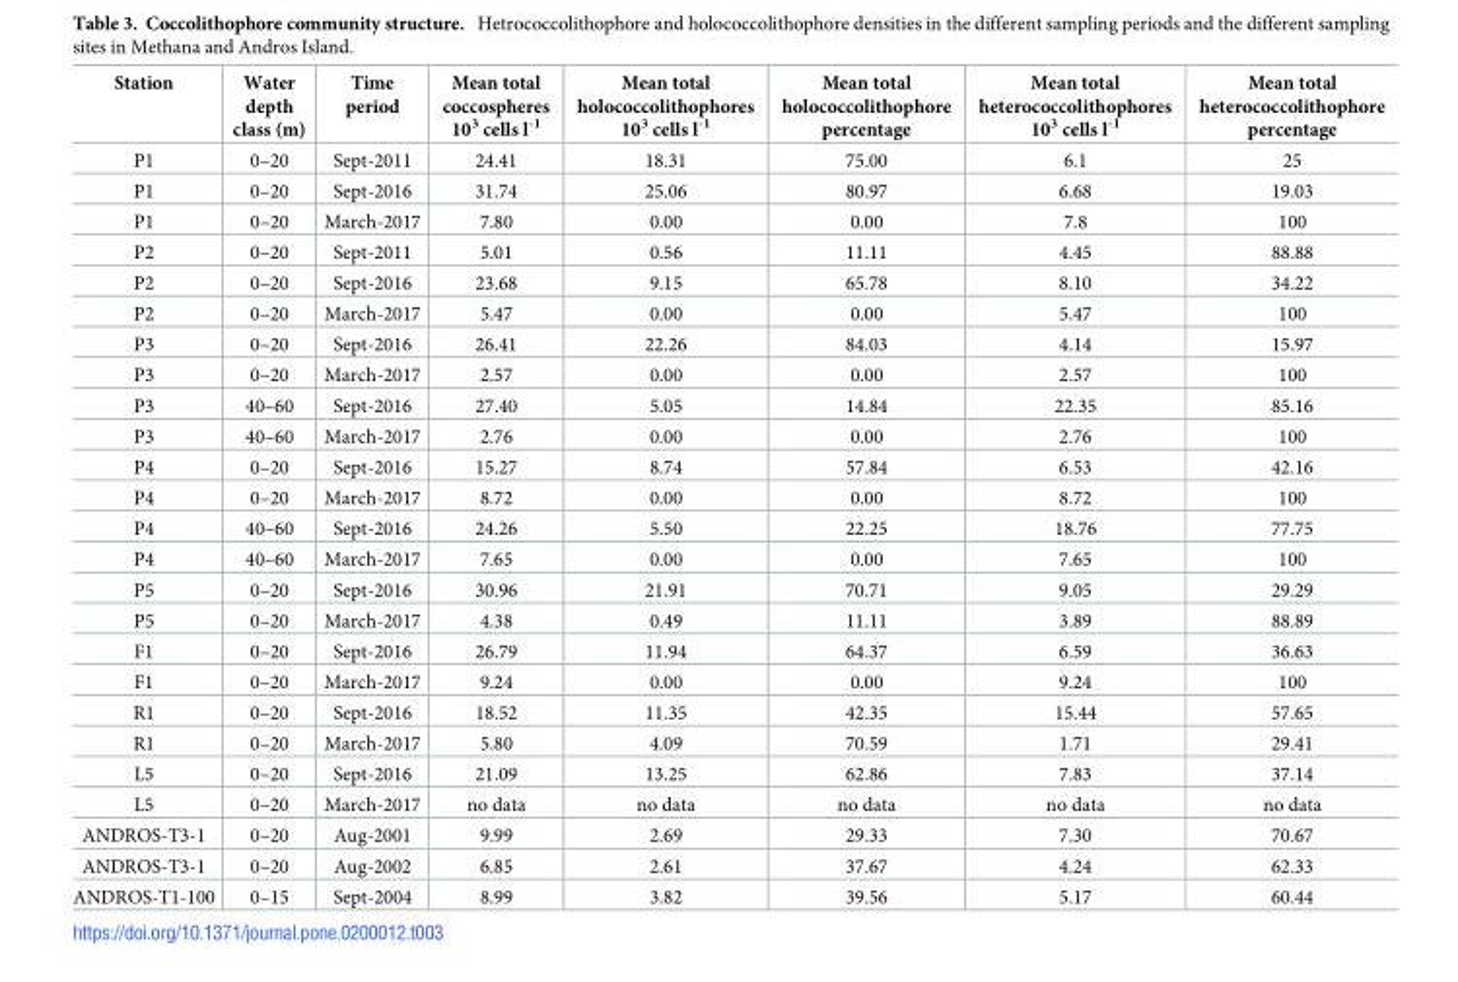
<table><thead><tr><td>Station</td><td>Water depth class (m)</td><td>Time period</td><td>Mean total coccospheres 10<sup>3</sup> cells l<sup>-1</sup></td><td>Mean total holococcolithophores 10<sup>3</sup> cells l<sup>-1</sup></td><td>Mean total holococcolithophore percentage</td><td>Mean total heterococcolithophores 10<sup>3</sup> cells l<sup>-1</sup></td><td>Mean total heterococcolithophore percentage</td></tr></thead><tbody><tr><td>P1</td><td>0–20</td><td>Sept-2011</td><td>24.41</td><td>18.31</td><td>75.00</td><td>6.1</td><td>25</td></tr><tr><td>P1</td><td>0–20</td><td>Sept-2016</td><td>31.74</td><td>25.06</td><td>80.97</td><td>6.68</td><td>19.03</td></tr><tr><td>P1</td><td>0–20</td><td>March-2017</td><td>7.80</td><td>0.00</td><td>0.00</td><td>7.8</td><td>100</td></tr><tr><td>P2</td><td>0–20</td><td>Sept-2011</td><td>5.01</td><td>0.56</td><td>11.11</td><td>4.45</td><td>88.88</td></tr><tr><td>P2</td><td>0–20</td><td>Sept-2016</td><td>23.68</td><td>9.15</td><td>65.78</td><td>8.10</td><td>34.22</td></tr><tr><td>P2</td><td>0–20</td><td>March-2017</td><td>5.47</td><td>0.00</td><td>0.00</td><td>5.47</td><td>100</td></tr><tr><td>P3</td><td>0–20</td><td>Sept-2016</td><td>26.41</td><td>22.26</td><td>84.03</td><td>4.14</td><td>15.97</td></tr><tr><td>P3</td><td>0–20</td><td>March-2017</td><td>2.57</td><td>0.00</td><td>0.00</td><td>2.57</td><td>100</td></tr><tr><td>P3</td><td>40–60</td><td>Sept-2016</td><td>27.40</td><td>5.05</td><td>14.84</td><td>22.35</td><td>85.16</td></tr><tr><td>P3</td><td>40–60</td><td>March-2017</td><td>2.76</td><td>0.00</td><td>0.00</td><td>2.76</td><td>100</td></tr><tr><td>P4</td><td>0–20</td><td>Sept-2016</td><td>15.27</td><td>8.74</td><td>57.84</td><td>6.53</td><td>42.16</td></tr><tr><td>P4</td><td>0–20</td><td>March-2017</td><td>8.72</td><td>0.00</td><td>0.00</td><td>8.72</td><td>100</td></tr><tr><td>P4</td><td>40–60</td><td>Sept-2016</td><td>24.26</td><td>5.50</td><td>22.25</td><td>18.76</td><td>77.75</td></tr><tr><td>P4</td><td>40–60</td><td>March-2017</td><td>7.65</td><td>0.00</td><td>0.00</td><td>7.65</td><td>100</td></tr><tr><td>P5</td><td>0–20</td><td>Sept-2016</td><td>30.96</td><td>21.91</td><td>70.71</td><td>9.05</td><td>29.29</td></tr><tr><td>P5</td><td>0–20</td><td>March-2017</td><td>4.38</td><td>0.49</td><td>11.11</td><td>3.89</td><td>88.89</td></tr><tr><td>F1</td><td>0–20</td><td>Sept-2016</td><td>26.79</td><td>11.94</td><td>64.37</td><td>6.59</td><td>36.63</td></tr><tr><td>F1</td><td>0–20</td><td>March-2017</td><td>9.24</td><td>0.00</td><td>0.00</td><td>9.24</td><td>100</td></tr><tr><td>R1</td><td>0–20</td><td>Sept-2016</td><td>18.52</td><td>11.35</td><td>42.35</td><td>15.44</td><td>57.65</td></tr><tr><td>R1</td><td>0–20</td><td>March-2017</td><td>5.80</td><td>4.09</td><td>70.59</td><td>1.71</td><td>29.41</td></tr><tr><td>L5</td><td>0–20</td><td>Sept-2016</td><td>21.09</td><td>13.25</td><td>62.86</td><td>7.83</td><td>37.14</td></tr><tr><td>L5</td><td>0–20</td><td>March-2017</td><td>no data</td><td>no data</td><td>no data</td><td>no data</td><td>no data</td></tr><tr><td>ANDROS-T3-1</td><td>0–20</td><td>Aug-2001</td><td>9.99</td><td>2.69</td><td>29.33</td><td>7.30</td><td>70.67</td></tr><tr><td>ANDROS-T3-1</td><td>0–20</td><td>Aug-2002</td><td>6.85</td><td>2.61</td><td>37.67</td><td>4.24</td><td>62.33</td></tr><tr><td>ANDROS-T1-100</td><td>0–15</td><td>Sept-2004</td><td>8.99</td><td>3.82</td><td>39.56</td><td>5.17</td><td>60.44</td></tr></tbody></table>